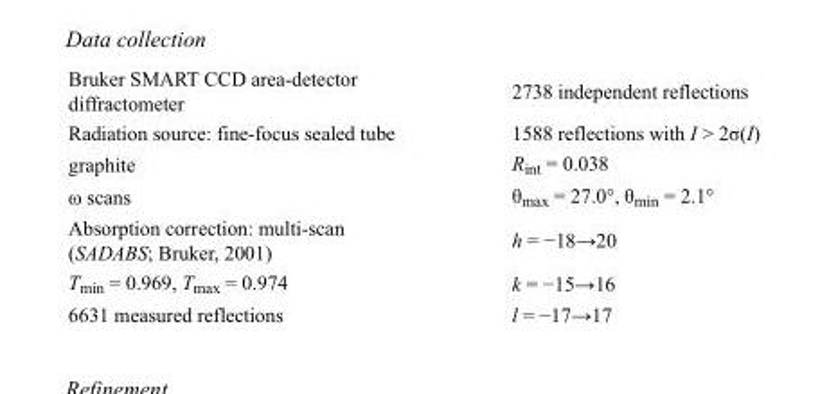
<table><tbody><tr><td>Bruker SMART CCD area-detector diffractometer</td><td>2738 independent reflections</td></tr><tr><td>Radiation source: fine-focus sealed tube</td><td>1588 reflections with I &gt; 2σ(I)</td></tr><tr><td>graphite</td><td>R<sub>int</sub> = 0.038</td></tr><tr><td>ω scans</td><td>θ<sub>max</sub> = 27.0°, θ<sub>min</sub> = 2.1°</td></tr><tr><td>Absorption correction: multi-scan (SADABS; Bruker, 2001)</td><td>h = −18→20</td></tr><tr><td>T<sub>min</sub> = 0.969, T<sub>max</sub> = 0.974</td><td>k = −15→16</td></tr><tr><td>6631 measured reflections</td><td>l = −17→17</td></tr></tbody></table>